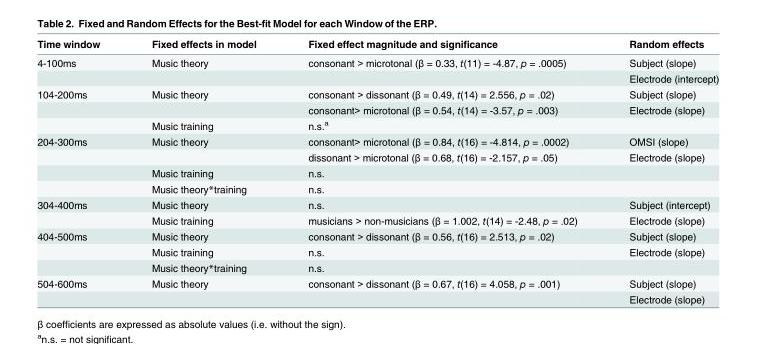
<table><thead><tr><td>Time window</td><td>Fixed effects in model</td><td>Fixed effect magnitude and significance</td><td>Random effects</td></tr></thead><tbody><tr><td rowspan="2">4-100ms</td><td>Music theory</td><td>consonant &gt; microtonal (β = 0.33, t(11) = -4.87, p = .0005)</td><td>Subject (slope)</td></tr><tr><td></td><td></td><td>Electrode (intercept)</td></tr><tr><td rowspan="3">104-200ms</td><td>Music theory</td><td>consonant &gt; dissonant (β = 0.49, t(14) = 2.556, p = .02)</td><td>Subject (slope)</td></tr><tr><td></td><td>consonant&gt; microtonal (β = 0.54, t(14) = -3.57, p = .003)</td><td>Electrode (slope)</td></tr><tr><td>Music training</td><td>n.s.<sup>a</sup></td><td></td></tr><tr><td rowspan="4">204-300ms</td><td>Music theory</td><td>consonant&gt; microtonal (β = 0.84, t(16) = -4.814, p = .0002)</td><td>OMSI (slope)</td></tr><tr><td></td><td>dissonant &gt; microtonal (β = 0.68, t(16) = -2.157, p = .05)</td><td>Electrode (slope)</td></tr><tr><td>Music training</td><td>n.s.</td><td></td></tr><tr><td>Music theory*training</td><td>n.s.</td><td></td></tr><tr><td rowspan="2">304-400ms</td><td>Music theory</td><td>n.s.</td><td>Subject (intercept)</td></tr><tr><td>Music training</td><td>musicians &gt; non-musicians (β = 1.002, t(14) = -2.48, p = .02)</td><td>Electrode (slope)</td></tr><tr><td rowspan="3">404-500ms</td><td>Music theory</td><td>consonant &gt; dissonant (β = 0.56, t(16) = 2.513, p = .02)</td><td>Subject (slope)</td></tr><tr><td>Music training</td><td>n.s.</td><td>Electrode (slope)</td></tr><tr><td>Music theory*training</td><td>n.s.</td><td></td></tr><tr><td rowspan="2">504-600ms</td><td>Music theory</td><td>consonant &gt; dissonant (β = 0.67, t(16) = 4.058, p = .001)</td><td>Subject (slope)</td></tr><tr><td></td><td></td><td>Electrode (slope)</td></tr></tbody></table>